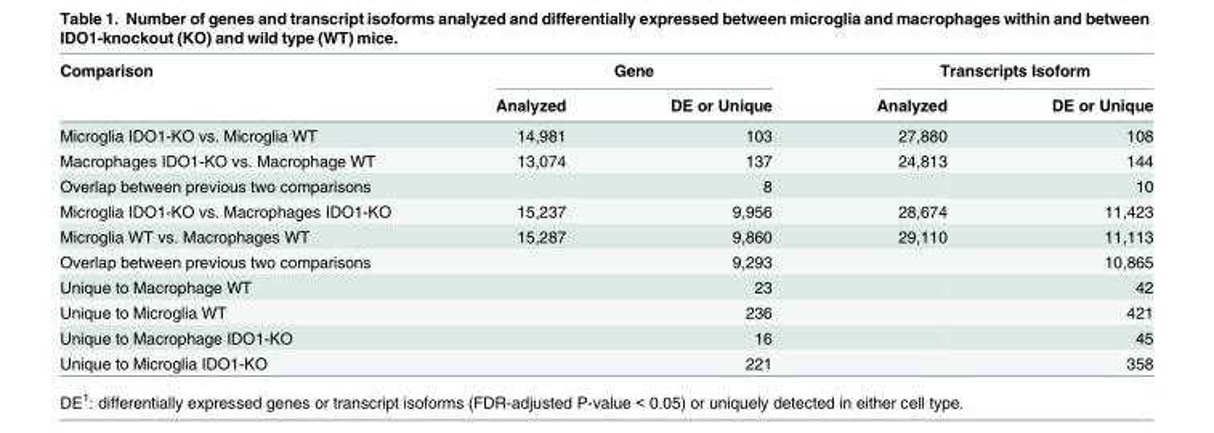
<table><thead><tr><td rowspan="2">Comparison</td><td colspan="2">Gene</td><td colspan="2">Transcripts Isoform</td></tr><tr><td>Analyzed</td><td>DE or Unique</td><td>Analyzed</td><td>DE or Unique</td></tr></thead><tbody><tr><td>Microglia IDO1-KO vs. Microglia WT</td><td>14,981</td><td>103</td><td>27,880</td><td>108</td></tr><tr><td>Macrophages IDO1-KO vs. Macrophage WT</td><td>13,074</td><td>137</td><td>24,813</td><td>144</td></tr><tr><td>Overlap between previous two comparisons</td><td></td><td>8</td><td></td><td>10</td></tr><tr><td>Microglia IDO1-KO vs. Macrophages IDO1-KO</td><td>15,237</td><td>9,956</td><td>28,674</td><td>11,423</td></tr><tr><td>Microglia WT vs. Macrophages WT</td><td>15,287</td><td>9,860</td><td>29,110</td><td>11,113</td></tr><tr><td>Overlap between previous two comparisons</td><td></td><td>9,293</td><td></td><td>10,865</td></tr><tr><td>Unique to Macrophage WT</td><td></td><td>23</td><td></td><td>42</td></tr><tr><td>Unique to Microglia WT</td><td></td><td>236</td><td></td><td>421</td></tr><tr><td>Unique to Macrophage IDO1-KO</td><td></td><td>16</td><td></td><td>45</td></tr><tr><td>Unique to Microglia IDO1-KO</td><td></td><td>221</td><td></td><td>358</td></tr></tbody></table>